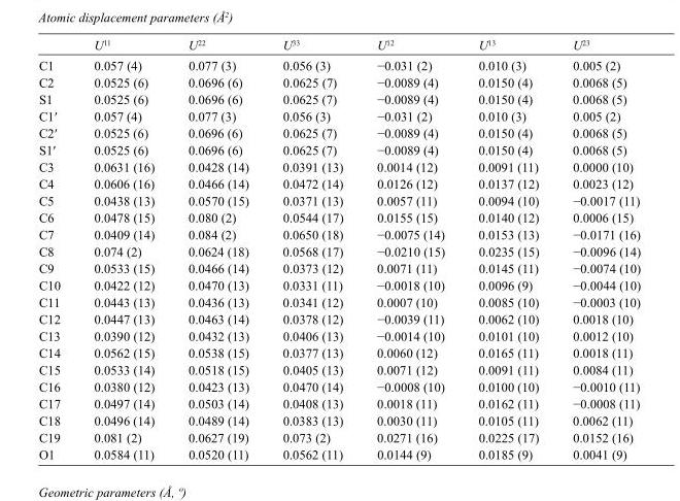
<table><thead><tr><td></td><td>U<sup>11</sup></td><td>U<sup>22</sup></td><td>U<sup>33</sup></td><td>U<sup>12</sup></td><td>U<sup>13</sup></td><td>U<sup>23</sup></td></tr></thead><tbody><tr><td>C1</td><td>0.057 (4)</td><td>0.077 (3)</td><td>0.056 (3)</td><td>−0.031 (2)</td><td>0.010 (3)</td><td>0.005 (2)</td></tr><tr><td>C2</td><td>0.0525 (6)</td><td>0.0696 (6)</td><td>0.0625 (7)</td><td>−0.0089 (4)</td><td>0.0150 (4)</td><td>0.0068 (5)</td></tr><tr><td>S1</td><td>0.0525 (6)</td><td>0.0696 (6)</td><td>0.0625 (7)</td><td>−0.0089 (4)</td><td>0.0150 (4)</td><td>0.0068 (5)</td></tr><tr><td>C1′</td><td>0.057 (4)</td><td>0.077 (3)</td><td>0.056 (3)</td><td>−0.031 (2)</td><td>0.010 (3)</td><td>0.005 (2)</td></tr><tr><td>C2′</td><td>0.0525 (6)</td><td>0.0696 (6)</td><td>0.0625 (7)</td><td>−0.0089 (4)</td><td>0.0150 (4)</td><td>0.0068 (5)</td></tr><tr><td>S1′</td><td>0.0525 (6)</td><td>0.0696 (6)</td><td>0.0625 (7)</td><td>−0.0089 (4)</td><td>0.0150 (4)</td><td>0.0068 (5)</td></tr><tr><td>C3</td><td>0.0631 (16)</td><td>0.0428 (14)</td><td>0.0391 (13)</td><td>0.0014 (12)</td><td>0.0091 (11)</td><td>0.0000 (10)</td></tr><tr><td>C4</td><td>0.0606 (16)</td><td>0.0466 (14)</td><td>0.0472 (14)</td><td>0.0126 (12)</td><td>0.0137 (12)</td><td>0.0023 (12)</td></tr><tr><td>C5</td><td>0.0438 (13)</td><td>0.0570 (15)</td><td>0.0371 (13)</td><td>0.0057 (11)</td><td>0.0094 (10)</td><td>−0.0017 (11)</td></tr><tr><td>C6</td><td>0.0478 (15)</td><td>0.080 (2)</td><td>0.0544 (17)</td><td>0.0155 (15)</td><td>0.0140 (12)</td><td>0.0006 (15)</td></tr><tr><td>C7</td><td>0.0409 (14)</td><td>0.084 (2)</td><td>0.0650 (18)</td><td>−0.0075 (14)</td><td>0.0153 (13)</td><td>−0.0171 (16)</td></tr><tr><td>C8</td><td>0.074 (2)</td><td>0.0624 (18)</td><td>0.0568 (17)</td><td>−0.0210 (15)</td><td>0.0235 (15)</td><td>−0.0096 (14)</td></tr><tr><td>C9</td><td>0.0533 (15)</td><td>0.0466 (14)</td><td>0.0373 (12)</td><td>0.0071 (11)</td><td>0.0145 (11)</td><td>−0.0074 (10)</td></tr><tr><td>C10</td><td>0.0422 (12)</td><td>0.0470 (13)</td><td>0.0331 (11)</td><td>−0.0018 (10)</td><td>0.0096 (9)</td><td>−0.0044 (10)</td></tr><tr><td>C11</td><td>0.0443 (13)</td><td>0.0436 (13)</td><td>0.0341 (12)</td><td>0.0007 (10)</td><td>0.0085 (10)</td><td>−0.0003 (10)</td></tr><tr><td>C12</td><td>0.0447 (13)</td><td>0.0463 (14)</td><td>0.0378 (12)</td><td>−0.0039 (11)</td><td>0.0062 (10)</td><td>0.0018 (10)</td></tr><tr><td>C13</td><td>0.0390 (12)</td><td>0.0432 (13)</td><td>0.0406 (13)</td><td>−0.0014 (10)</td><td>0.0101 (10)</td><td>0.0012 (10)</td></tr><tr><td>C14</td><td>0.0562 (15)</td><td>0.0538 (15)</td><td>0.0377 (13)</td><td>0.0060 (12)</td><td>0.0165 (11)</td><td>0.0018 (11)</td></tr><tr><td>C15</td><td>0.0533 (14)</td><td>0.0518 (15)</td><td>0.0405 (13)</td><td>0.0071 (12)</td><td>0.0091 (11)</td><td>0.0084 (11)</td></tr><tr><td>C16</td><td>0.0380 (12)</td><td>0.0423 (13)</td><td>0.0470 (14)</td><td>−0.0008 (10)</td><td>0.0100 (10)</td><td>−0.0010 (11)</td></tr><tr><td>C17</td><td>0.0497 (14)</td><td>0.0503 (14)</td><td>0.0408 (13)</td><td>0.0018 (11)</td><td>0.0162 (11)</td><td>−0.0008 (11)</td></tr><tr><td>C18</td><td>0.0496 (14)</td><td>0.0489 (14)</td><td>0.0383 (13)</td><td>0.0030 (11)</td><td>0.0105 (11)</td><td>0.0062 (11)</td></tr><tr><td>C19</td><td>0.081 (2)</td><td>0.0627 (19)</td><td>0.073 (2)</td><td>0.0271 (16)</td><td>0.0225 (17)</td><td>0.0152 (16)</td></tr><tr><td>O1</td><td>0.0584 (11)</td><td>0.0520 (11)</td><td>0.0562 (11)</td><td>0.0144 (9)</td><td>0.0185 (9)</td><td>0.0041 (9)</td></tr></tbody></table>